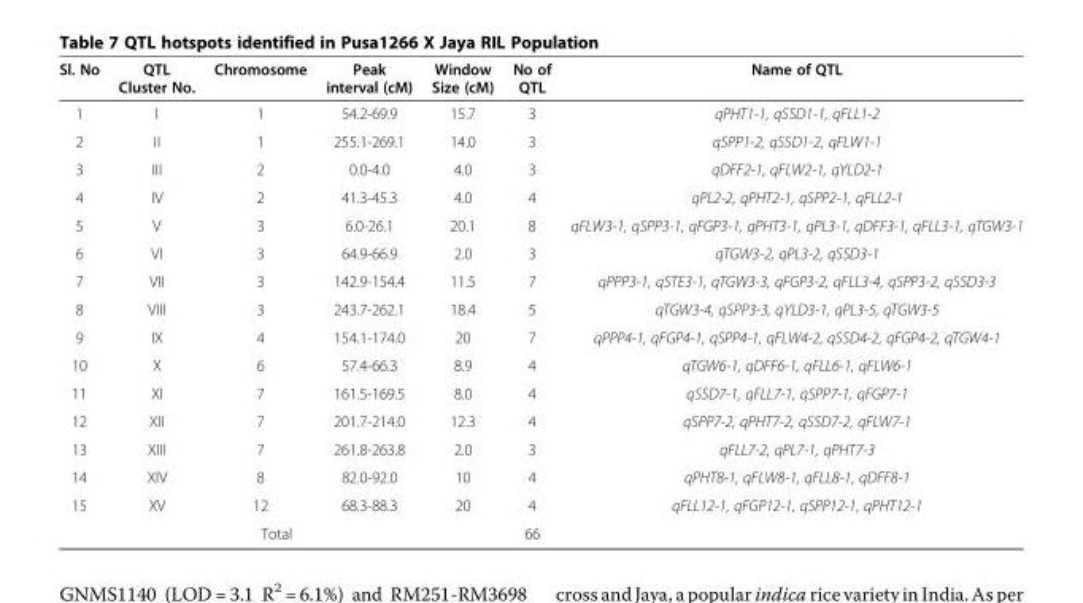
<table><thead><tr><td>Sl. No</td><td>QTL Cluster No.</td><td>Chromosome</td><td>Peak interval (cM)</td><td>Window Size (cM)</td><td>No of QTL</td><td>Name of QTL</td></tr></thead><tbody><tr><td>1</td><td>I</td><td>1</td><td>54.2-69.9</td><td>15.7</td><td>3</td><td>qPHT1-1, qSSD1-1, qFLL1-2</td></tr><tr><td>2</td><td>II</td><td>1</td><td>255.1-269.1</td><td>14.0</td><td>3</td><td>qSPP1-2, qSSD1-2, qFLW1-1</td></tr><tr><td>3</td><td>III</td><td>2</td><td>0.0-4.0</td><td>4.0</td><td>3</td><td>qDFF2-1, qFLW2-1, qYLD2-1</td></tr><tr><td>4</td><td>IV</td><td>2</td><td>41.3-45.3</td><td>4.0</td><td>4</td><td>qPL2-2, qPHT2-1, qSPP2-1, qFLL2-1</td></tr><tr><td>5</td><td>V</td><td>3</td><td>6.0-26.1</td><td>20.1</td><td>8</td><td>qFLW3-1, qSPP3-1, qFGP3-1, qPHT3-1, qPL3-1, qDFF3-1, qFLL3-1, qTGW3-1</td></tr><tr><td>6</td><td>VI</td><td>3</td><td>64.9-66.9</td><td>2.0</td><td>3</td><td>qTGW3-2, qPL3-2, qSSD3-1</td></tr><tr><td>7</td><td>VII</td><td>3</td><td>142.9-154.4</td><td>11.5</td><td>7</td><td>qPPP3-1, qSTE3-1, qTGW3-3, qFGP3-2, qFLL3-4, qSPP3-2, qSSD3-3</td></tr><tr><td>8</td><td>VIII</td><td>3</td><td>243.7-262.1</td><td>18.4</td><td>5</td><td>qTGW3-4, qSPP3-3, qYLD3-1, qPL3-5, qTGW3-5</td></tr><tr><td>9</td><td>IX</td><td>4</td><td>154.1-174.0</td><td>20</td><td>7</td><td>qPPP4-1, qFGP4-1, qSPP4-1, qFLW4-2, qSSD4-2, qFGP4-2, qTGW4-1</td></tr><tr><td>10</td><td>X</td><td>6</td><td>57.4-66.3</td><td>8.9</td><td>4</td><td>qTGW6-1, qDFF6-1, qFLL6-1, qFLW6-1</td></tr><tr><td>11</td><td>XI</td><td>7</td><td>161.5-169.5</td><td>8.0</td><td>4</td><td>qSSD7-1, qFLL7-1, qSPP7-1, qFGP7-1</td></tr><tr><td>12</td><td>XII</td><td>7</td><td>201.7-214.0</td><td>12.3</td><td>4</td><td>qSPP7-2, qPHT7-2, qSSD7-2, qFLW7-1</td></tr><tr><td>13</td><td>XIII</td><td>7</td><td>261.8-263.8</td><td>2.0</td><td>3</td><td>qFLL7-2, qPL7-1, qPHT7-3</td></tr><tr><td>14</td><td>XIV</td><td>8</td><td>82.0-92.0</td><td>10</td><td>4</td><td>qPHT8-1, qFLW8-1, qFLL8-1, qDFF8-1</td></tr><tr><td>15</td><td>XV</td><td>12</td><td>68.3-88.3</td><td>20</td><td>4</td><td>qFLL12-1, qFGP12-1, qSPP12-1, qPHT12-1</td></tr><tr><td colspan="5">Total</td><td>66</td><td></td></tr></tbody></table>